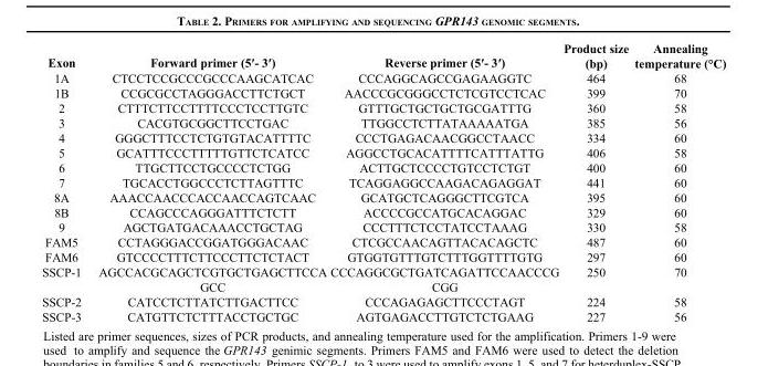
<table><thead><tr><td>Exon</td><td>Forward primer (5′- 3′)</td><td>Reverse primer (5′- 3′)</td><td>Product size (bp)</td><td>Annealing temperature (°C)</td></tr></thead><tbody><tr><td>1A</td><td>CTCCTCCGCCCGCCCAAGCATCAC</td><td>CCCAGGCAGCCGAGAAGGTC</td><td>464</td><td>68</td></tr><tr><td>1B</td><td>CCGCGCCTAGGGACCTTCTGCT</td><td>AACCCGCGGGCCTCTCGTCCTCAC</td><td>399</td><td>70</td></tr><tr><td>2</td><td>CTTTCTTCCTTTTCCCTCCTTGTC</td><td>GTTTGCTGCTGCTGCGATTTG</td><td>360</td><td>58</td></tr><tr><td>3</td><td>CACGTGCGGCTTCCTGAC</td><td>TTGGCCTCTTATAAAAATGA</td><td>385</td><td>56</td></tr><tr><td>4</td><td>GGGCTTTCCTCTGTGTACATTTTC</td><td>CCCTGAGACAACGGCCTAACC</td><td>334</td><td>60</td></tr><tr><td>5</td><td>GCATTTCCCTTTTTGTTCTCATCC</td><td>AGGCCTGCACATTTTCATTTATTG</td><td>406</td><td>58</td></tr><tr><td>6</td><td>TTGCTTCCTGCCCCTCTGG</td><td>ACTTGCTCCCCTGTCCTCTGT</td><td>400</td><td>60</td></tr><tr><td>7</td><td>TGCACCTGGCCCTCTTAGTTTC</td><td>TCAGGAGGCCAAGACAGAGGAT</td><td>441</td><td>60</td></tr><tr><td>8A</td><td>AAACCAACCCACCAACCAGTCAAC</td><td>GCATGCTCAGGGCTTCGTCA</td><td>395</td><td>60</td></tr><tr><td>8B</td><td>CCAGCCCAGGGATTTCTCTT</td><td>ACCCCGCCATGCACAGGAC</td><td>329</td><td>60</td></tr><tr><td>9</td><td>AGCTGATGACAAACCTGCTAG</td><td>CCCTTTCTCCTATCCTAAAG</td><td>330</td><td>58</td></tr><tr><td>FAM5</td><td>CCTAGGGACCGGATGGGACAAC</td><td>CTCGCCAACAGTTACACAGCTC</td><td>487</td><td>60</td></tr><tr><td>FAM6</td><td>GTCCCCTTTCTTCCCTTCTCTACT</td><td>GTGGTGTTTGTCTTTGGTTTTGTG</td><td>297</td><td>60</td></tr><tr><td>SSCP-1</td><td>AGCCACGCAGCTCGTGCTGAGCTTCCA GCC</td><td>CCCAGGCGCTGATCAGATTCCAACCCG CGG</td><td>250</td><td>70</td></tr><tr><td>SSCP-2</td><td>CATCCTCTTATCTTGACTTCC</td><td>CCCAGAGAGCTTCCCTAGT</td><td>224</td><td>58</td></tr><tr><td>SSCP-3</td><td>CATGTTCTCTTTACCTGCTGC</td><td>AGTGAGACCTTGTCTCTGAAG</td><td>227</td><td>56</td></tr></tbody></table>